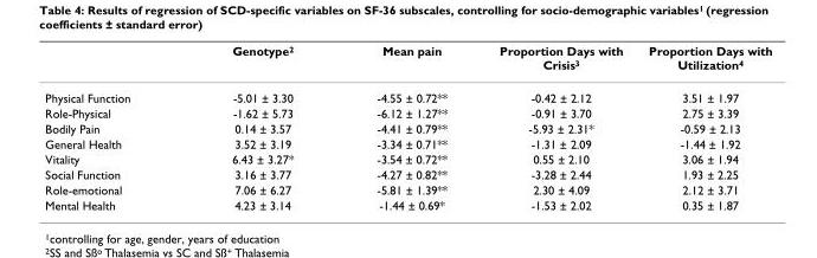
<table><thead><tr><td></td><td>Genotype<sup>2</sup></td><td>Mean pain</td><td>Proportion Days with Crisis<sup>3</sup></td><td>Proportion Days with Utilization<sup>4</sup></td></tr></thead><tbody><tr><td>Physical Function</td><td>-5.01 ± 3.30</td><td>-4.55 ± 0.72**</td><td>-0.42 ± 2.12</td><td>3.51 ± 1.97</td></tr><tr><td>Role-Physical</td><td>-1.62 ± 5.73</td><td>-6.12 ± 1.27**</td><td>-0.91 ± 3.70</td><td>2.75 ± 3.39</td></tr><tr><td>Bodily Pain</td><td>0.14 ± 3.57</td><td>-4.41 ± 0.79**</td><td>-5.93 ± 2.31*</td><td>-0.59 ± 2.13</td></tr><tr><td>General Health</td><td>3.52 ± 3.19</td><td>-3.34 ± 0.71**</td><td>-1.31 ± 2.09</td><td>-1.44 ± 1.92</td></tr><tr><td>Vitality</td><td>6.43 ± 3.27*</td><td>-3.54 ± 0.72**</td><td>0.55 ± 2.10</td><td>3.06 ± 1.94</td></tr><tr><td>Social Function</td><td>3.16 ± 3.77</td><td>-4.27 ± 0.82**</td><td>-3.28 ± 2.44</td><td>1.93 ± 2.25</td></tr><tr><td>Role-emotional</td><td>7.06 ± 6.27</td><td>-5.81 ± 1.39**</td><td>2.30 ± 4.09</td><td>2.12 ± 3.71</td></tr><tr><td>Mental Health</td><td>4.23 ± 3.14</td><td>-1.44 ± 0.69*</td><td>-1.53 ± 2.02</td><td>0.35 ± 1.87</td></tr></tbody></table>